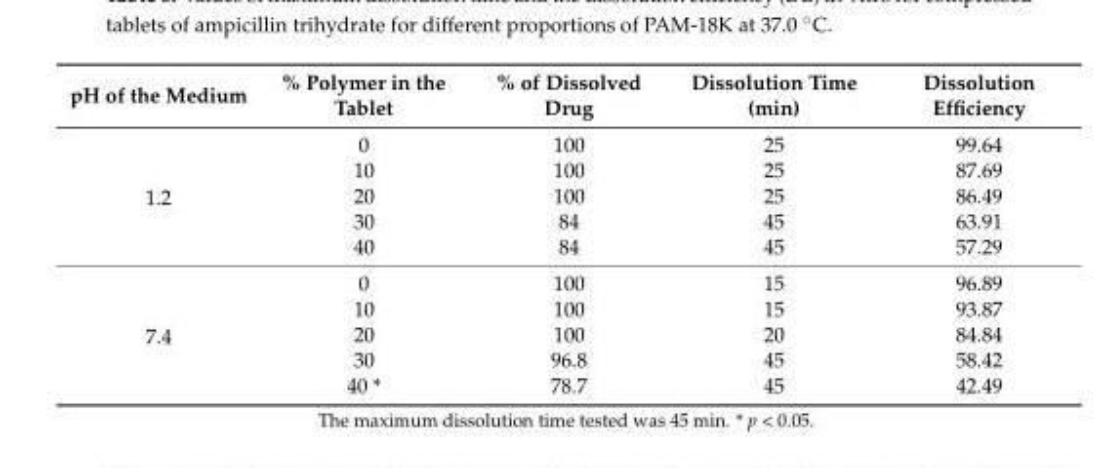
<table><thead><tr><td>pH of the Medium</td><td>% Polymer in the Tablet</td><td>% of Dissolved Drug</td><td>Dissolution Time (min)</td><td>Dissolution Efficiency</td></tr></thead><tbody><tr><td rowspan="5">1.2</td><td>0</td><td>100</td><td>25</td><td>99.64</td></tr><tr><td>10</td><td>100</td><td>25</td><td>87.69</td></tr><tr><td>20</td><td>100</td><td>25</td><td>86.49</td></tr><tr><td>30</td><td>84</td><td>45</td><td>63.91</td></tr><tr><td>40</td><td>84</td><td>45</td><td>57.29</td></tr><tr><td rowspan="5">7.4</td><td>0</td><td>100</td><td>15</td><td>96.89</td></tr><tr><td>10</td><td>100</td><td>15</td><td>93.87</td></tr><tr><td>20</td><td>100</td><td>20</td><td>84.84</td></tr><tr><td>30</td><td>96.8</td><td>45</td><td>58.42</td></tr><tr><td>40 *</td><td>78.7</td><td>45</td><td>42.49</td></tr></tbody></table>